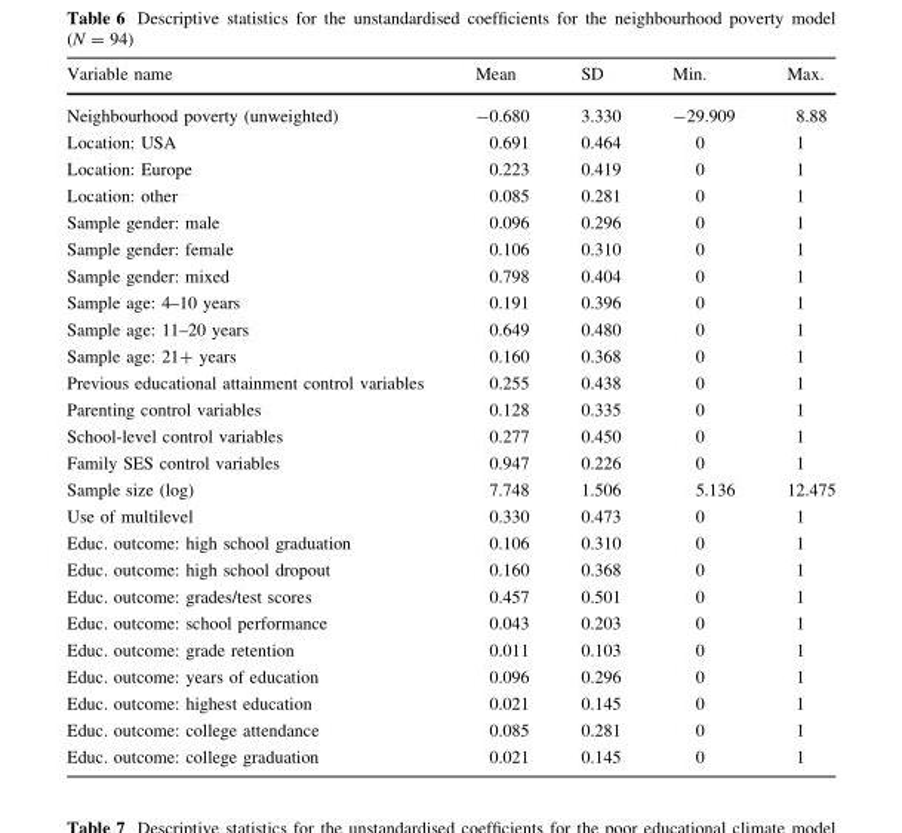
<table><thead><tr><td>Variable name</td><td>Mean</td><td>SD</td><td>Min.</td><td>Max.</td></tr></thead><tbody><tr><td>Neighbourhood poverty (unweighted)</td><td>-0.680</td><td>3.330</td><td>-29.909</td><td>8.88</td></tr><tr><td>Location: USA</td><td>0.691</td><td>0.464</td><td>0</td><td>1</td></tr><tr><td>Location: Europe</td><td>0.223</td><td>0.419</td><td>0</td><td>1</td></tr><tr><td>Location: other</td><td>0.085</td><td>0.281</td><td>0</td><td>1</td></tr><tr><td>Sample gender: male</td><td>0.096</td><td>0.296</td><td>0</td><td>1</td></tr><tr><td>Sample gender: female</td><td>0.106</td><td>0.310</td><td>0</td><td>1</td></tr><tr><td>Sample gender: mixed</td><td>0.798</td><td>0.404</td><td>0</td><td>1</td></tr><tr><td>Sample age: 4–10 years</td><td>0.191</td><td>0.396</td><td>0</td><td>1</td></tr><tr><td>Sample age: 11–20 years</td><td>0.649</td><td>0.480</td><td>0</td><td>1</td></tr><tr><td>Sample age: 21+ years</td><td>0.160</td><td>0.368</td><td>0</td><td>1</td></tr><tr><td>Previous educational attainment control variables</td><td>0.255</td><td>0.438</td><td>0</td><td>1</td></tr><tr><td>Parenting control variables</td><td>0.128</td><td>0.335</td><td>0</td><td>1</td></tr><tr><td>School-level control variables</td><td>0.277</td><td>0.450</td><td>0</td><td>1</td></tr><tr><td>Family SES control variables</td><td>0.947</td><td>0.226</td><td>0</td><td>1</td></tr><tr><td>Sample size (log)</td><td>7.748</td><td>1.506</td><td>5.136</td><td>12.475</td></tr><tr><td>Use of multilevel</td><td>0.330</td><td>0.473</td><td>0</td><td>1</td></tr><tr><td>Educ. outcome: high school graduation</td><td>0.106</td><td>0.310</td><td>0</td><td>1</td></tr><tr><td>Educ. outcome: high school dropout</td><td>0.160</td><td>0.368</td><td>0</td><td>1</td></tr><tr><td>Educ. outcome: grades/test scores</td><td>0.457</td><td>0.501</td><td>0</td><td>1</td></tr><tr><td>Educ. outcome: school performance</td><td>0.043</td><td>0.203</td><td>0</td><td>1</td></tr><tr><td>Educ. outcome: grade retention</td><td>0.011</td><td>0.103</td><td>0</td><td>1</td></tr><tr><td>Educ. outcome: years of education</td><td>0.096</td><td>0.296</td><td>0</td><td>1</td></tr><tr><td>Educ. outcome: highest education</td><td>0.021</td><td>0.145</td><td>0</td><td>1</td></tr><tr><td>Educ. outcome: college attendance</td><td>0.085</td><td>0.281</td><td>0</td><td>1</td></tr><tr><td>Educ. outcome: college graduation</td><td>0.021</td><td>0.145</td><td>0</td><td>1</td></tr></tbody></table>